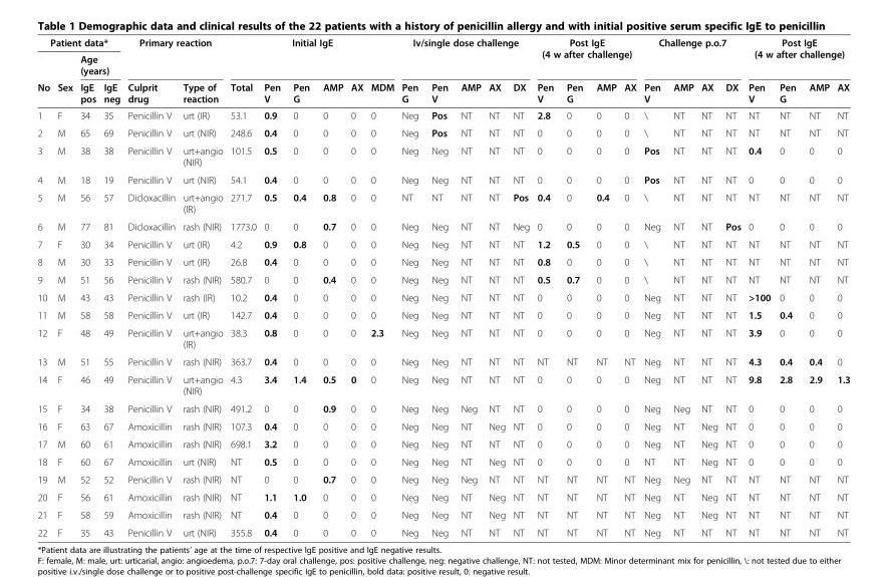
<table><thead><tr><td colspan="4">Patient data*</td><td rowspan="2" colspan="2">Primary reaction</td><td rowspan="2" colspan="6">Initial IgE</td><td rowspan="2" colspan="5">Iv/single dose challenge</td><td rowspan="2" colspan="4">Post IgE (4 w after challenge)</td><td rowspan="2" colspan="4">Challenge p.o.7</td><td rowspan="2" colspan="4">Post IgE (4 w after challenge)</td></tr><tr><td rowspan="2">No</td><td rowspan="2">Sex</td><td colspan="2">Age (years)</td></tr><tr><td>IgE pos</td><td>IgE neg</td><td>Culprit drug</td><td>Type of reaction</td><td>Total</td><td>Pen V</td><td>Pen G</td><td>AMP</td><td>AX</td><td>MDM</td><td>Pen G</td><td>Pen V</td><td>AMP</td><td>AX</td><td>DX</td><td>Pen V</td><td>Pen G</td><td>AMP</td><td>AX</td><td>Pen V</td><td>AMP</td><td>AX</td><td>DX</td><td>Pen V</td><td>Pen G</td><td>AMP</td><td>AX</td></tr></thead><tbody><tr><td>1</td><td>F</td><td>34</td><td>35</td><td>Penicillin V</td><td>urt (IR)</td><td>53.1</td><td>0.9</td><td>0</td><td>0</td><td>0</td><td>0</td><td>Neg</td><td>Pos</td><td>NT</td><td>NT</td><td>NT</td><td>2.8</td><td>0</td><td>0</td><td>0</td><td>\</td><td>NT</td><td>NT</td><td>NT</td><td>NT</td><td>NT</td><td>NT</td><td>NT</td></tr><tr><td>2</td><td>M</td><td>65</td><td>69</td><td>Penicillin V</td><td>urt (NIR)</td><td>248.6</td><td>0.4</td><td>0</td><td>0</td><td>0</td><td>0</td><td>Neg</td><td>Pos</td><td>NT</td><td>NT</td><td>NT</td><td>0</td><td>0</td><td>0</td><td>0</td><td>\</td><td>NT</td><td>NT</td><td>NT</td><td>NT</td><td>NT</td><td>NT</td><td>NT</td></tr><tr><td>3</td><td>M</td><td>38</td><td>38</td><td>Penicillin V</td><td>urt+angio (NIR)</td><td>101.5</td><td>0.5</td><td>0</td><td>0</td><td>0</td><td>0</td><td>Neg</td><td>Neg</td><td>NT</td><td>NT</td><td>NT</td><td>0</td><td>0</td><td>0</td><td>0</td><td>Pos</td><td>NT</td><td>NT</td><td>NT</td><td>0.4</td><td>0</td><td>0</td><td>0</td></tr><tr><td>4</td><td>M</td><td>18</td><td>19</td><td>Penicillin V</td><td>urt (NIR)</td><td>54.1</td><td>0.4</td><td>0</td><td>0</td><td>0</td><td>0</td><td>Neg</td><td>Neg</td><td>NT</td><td>NT</td><td>NT</td><td>0</td><td>0</td><td>0</td><td>0</td><td>Pos</td><td>NT</td><td>NT</td><td>NT</td><td>0</td><td>0</td><td>0</td><td>0</td></tr><tr><td>5</td><td>M</td><td>56</td><td>57</td><td>Dicloxacillin</td><td>urt+angio (IR)</td><td>271.7</td><td>0.5</td><td>0.4</td><td>0.8</td><td>0</td><td>0</td><td>NT</td><td>NT</td><td>NT</td><td>NT</td><td>Pos</td><td>0.4</td><td>0</td><td>0.4</td><td>0</td><td>\</td><td>NT</td><td>NT</td><td>NT</td><td>NT</td><td>NT</td><td>NT</td><td>NT</td></tr><tr><td>6</td><td>M</td><td>77</td><td>81</td><td>Dicloxacillin</td><td>rash (NIR)</td><td>1773.0</td><td>0</td><td>0</td><td>0.7</td><td>0</td><td>0</td><td>Neg</td><td>Neg</td><td>NT</td><td>NT</td><td>Neg</td><td>0</td><td>0</td><td>0</td><td>0</td><td>Neg</td><td>NT</td><td>NT</td><td>Pos</td><td>0</td><td>0</td><td>0</td><td>0</td></tr><tr><td>7</td><td>F</td><td>30</td><td>34</td><td>Penicillin V</td><td>urt (IR)</td><td>4.2</td><td>0.9</td><td>0.8</td><td>0</td><td>0</td><td>0</td><td>Neg</td><td>Neg</td><td>NT</td><td>NT</td><td>NT</td><td>1.2</td><td>0.5</td><td>0</td><td>0</td><td>\</td><td>NT</td><td>NT</td><td>NT</td><td>NT</td><td>NT</td><td>NT</td><td>NT</td></tr><tr><td>8</td><td>M</td><td>30</td><td>33</td><td>Penicillin V</td><td>urt (IR)</td><td>26.8</td><td>0.4</td><td>0</td><td>0</td><td>0</td><td>0</td><td>Neg</td><td>Neg</td><td>NT</td><td>NT</td><td>NT</td><td>0.8</td><td>0</td><td>0</td><td>0</td><td>\</td><td>NT</td><td>NT</td><td>NT</td><td>NT</td><td>NT</td><td>NT</td><td>NT</td></tr><tr><td>9</td><td>M</td><td>51</td><td>56</td><td>Penicillin V</td><td>rash (NIR)</td><td>580.7</td><td>0</td><td>0</td><td>0.4</td><td>0</td><td>0</td><td>Neg</td><td>Neg</td><td>NT</td><td>NT</td><td>NT</td><td>0.5</td><td>0.7</td><td>0</td><td>0</td><td>\</td><td>NT</td><td>NT</td><td>NT</td><td>NT</td><td>NT</td><td>NT</td><td>NT</td></tr><tr><td>10</td><td>M</td><td>43</td><td>43</td><td>Penicillin V</td><td>rash (IR)</td><td>10.2</td><td>0.4</td><td>0</td><td>0</td><td>0</td><td>0</td><td>Neg</td><td>Neg</td><td>NT</td><td>NT</td><td>NT</td><td>0</td><td>0</td><td>0</td><td>0</td><td>Neg</td><td>NT</td><td>NT</td><td>NT</td><td>&gt;100</td><td>0</td><td>0</td><td>0</td></tr><tr><td>11</td><td>M</td><td>58</td><td>58</td><td>Penicillin V</td><td>urt (IR)</td><td>142.7</td><td>0.4</td><td>0</td><td>0</td><td>0</td><td>0</td><td>Neg</td><td>Neg</td><td>NT</td><td>NT</td><td>NT</td><td>0</td><td>0</td><td>0</td><td>0</td><td>Neg</td><td>NT</td><td>NT</td><td>NT</td><td>1.5</td><td>0.4</td><td>0</td><td>0</td></tr><tr><td>12</td><td>F</td><td>48</td><td>49</td><td>Penicillin V</td><td>urt+angio (IR)</td><td>38.3</td><td>0.8</td><td>0</td><td>0</td><td>0</td><td>2.3</td><td>Neg</td><td>Neg</td><td>NT</td><td>NT</td><td>NT</td><td>0</td><td>0</td><td>0</td><td>0</td><td>Neg</td><td>NT</td><td>NT</td><td>NT</td><td>3.9</td><td>0</td><td>0</td><td>0</td></tr><tr><td>13</td><td>M</td><td>51</td><td>55</td><td>Penicillin V</td><td>rash (NIR)</td><td>363.7</td><td>0.4</td><td>0</td><td>0</td><td>0</td><td>0</td><td>Neg</td><td>Neg</td><td>NT</td><td>NT</td><td>NT</td><td>NT</td><td>NT</td><td>NT</td><td>NT</td><td>Neg</td><td>NT</td><td>NT</td><td>NT</td><td>4.3</td><td>0.4</td><td>0.4</td><td>0</td></tr><tr><td>14</td><td>F</td><td>46</td><td>49</td><td>Penicillin V</td><td>urt+angio (NIR)</td><td>4.3</td><td>3.4</td><td>1.4</td><td>0.5</td><td>0</td><td>0</td><td>Neg</td><td>Neg</td><td>NT</td><td>NT</td><td>NT</td><td>0</td><td>0</td><td>0</td><td>0</td><td>Neg</td><td>NT</td><td>NT</td><td>NT</td><td>9.8</td><td>2.8</td><td>2.9</td><td>1.3</td></tr><tr><td>15</td><td>F</td><td>34</td><td>38</td><td>Penicillin V</td><td>rash (NIR)</td><td>491.2</td><td>0</td><td>0</td><td>0.9</td><td>0</td><td>0</td><td>Neg</td><td>Neg</td><td>Neg</td><td>NT</td><td>NT</td><td>0</td><td>0</td><td>0</td><td>0</td><td>Neg</td><td>Neg</td><td>NT</td><td>NT</td><td>0</td><td>0</td><td>0</td><td>0</td></tr><tr><td>16</td><td>F</td><td>63</td><td>67</td><td>Amoxicillin</td><td>rash (NIR)</td><td>107.3</td><td>0.4</td><td>0</td><td>0</td><td>0</td><td>0</td><td>Neg</td><td>Neg</td><td>NT</td><td>Neg</td><td>NT</td><td>0</td><td>0</td><td>0</td><td>0</td><td>Neg</td><td>NT</td><td>Neg</td><td>NT</td><td>0</td><td>0</td><td>0</td><td>0</td></tr><tr><td>17</td><td>M</td><td>60</td><td>61</td><td>Amoxicillin</td><td>rash (NIR)</td><td>698.1</td><td>3.2</td><td>0</td><td>0</td><td>0</td><td>0</td><td>Neg</td><td>Neg</td><td>NT</td><td>NT</td><td>NT</td><td>0</td><td>0</td><td>0</td><td>0</td><td>Neg</td><td>NT</td><td>Neg</td><td>NT</td><td>0</td><td>0</td><td>0</td><td>0</td></tr><tr><td>18</td><td>F</td><td>60</td><td>67</td><td>Amoxicillin</td><td>urt (NIR)</td><td>NT</td><td>0.5</td><td>0</td><td>0</td><td>0</td><td>0</td><td>Neg</td><td>Neg</td><td>NT</td><td>Neg</td><td>NT</td><td>0</td><td>0</td><td>0</td><td>0</td><td>NT</td><td>NT</td><td>Neg</td><td>NT</td><td>0</td><td>0</td><td>0</td><td>0</td></tr><tr><td>19</td><td>M</td><td>52</td><td>52</td><td>Penicillin V</td><td>rash (NIR)</td><td>NT</td><td>0</td><td>0</td><td>0.7</td><td>0</td><td>0</td><td>Neg</td><td>Neg</td><td>Neg</td><td>NT</td><td>NT</td><td>NT</td><td>NT</td><td>NT</td><td>NT</td><td>Neg</td><td>Neg</td><td>NT</td><td>NT</td><td>NT</td><td>NT</td><td>NT</td><td>NT</td></tr><tr><td>20</td><td>F</td><td>56</td><td>61</td><td>Amoxicillin</td><td>rash (NIR)</td><td>NT</td><td>1.1</td><td>1.0</td><td>0</td><td>0</td><td>0</td><td>Neg</td><td>Neg</td><td>NT</td><td>Neg</td><td>NT</td><td>NT</td><td>NT</td><td>NT</td><td>NT</td><td>Neg</td><td>NT</td><td>Neg</td><td>NT</td><td>NT</td><td>NT</td><td>NT</td><td>NT</td></tr><tr><td>21</td><td>F</td><td>58</td><td>59</td><td>Amoxicillin</td><td>rash (NIR)</td><td>NT</td><td>0.4</td><td>0</td><td>0</td><td>0</td><td>0</td><td>Neg</td><td>Neg</td><td>NT</td><td>Neg</td><td>NT</td><td>NT</td><td>NT</td><td>NT</td><td>NT</td><td>Neg</td><td>NT</td><td>Neg</td><td>NT</td><td>NT</td><td>NT</td><td>NT</td><td>NT</td></tr><tr><td>22</td><td>F</td><td>35</td><td>43</td><td>Penicillin V</td><td>urt (NIR)</td><td>355.8</td><td>0.4</td><td>0</td><td>0</td><td>0</td><td>0</td><td>Neg</td><td>Neg</td><td>NT</td><td>NT</td><td>NT</td><td>NT</td><td>NT</td><td>NT</td><td>NT</td><td>Neg</td><td>NT</td><td>NT</td><td>NT</td><td>NT</td><td>NT</td><td>NT</td><td>NT</td></tr></tbody></table>